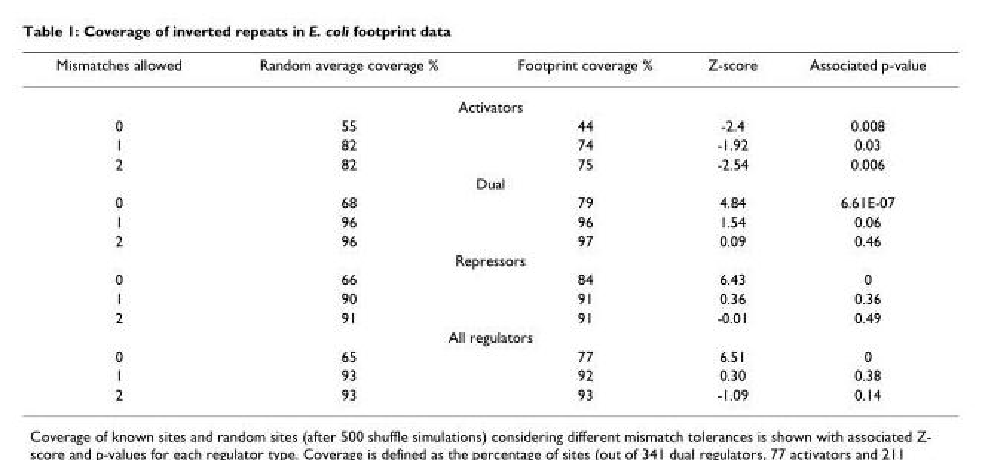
<table><thead><tr><td>Mismatches allowed</td><td>Random average coverage %</td><td>Footprint coverage %</td><td>Z-score</td><td>Associated p-value</td></tr></thead><tbody><tr><td colspan="5">Activators</td></tr><tr><td>0</td><td>55</td><td>44</td><td>-2.4</td><td>0.008</td></tr><tr><td>1</td><td>82</td><td>74</td><td>-1.92</td><td>0.03</td></tr><tr><td>2</td><td>82</td><td>75</td><td>-2.54</td><td>0.006</td></tr><tr><td colspan="5">Dual</td></tr><tr><td>0</td><td>68</td><td>79</td><td>4.84</td><td>6.61E-07</td></tr><tr><td>1</td><td>96</td><td>96</td><td>1.54</td><td>0.06</td></tr><tr><td>2</td><td>96</td><td>97</td><td>0.09</td><td>0.46</td></tr><tr><td colspan="5">Repressors</td></tr><tr><td>0</td><td>66</td><td>84</td><td>6.43</td><td>0</td></tr><tr><td>1</td><td>90</td><td>91</td><td>0.36</td><td>0.36</td></tr><tr><td>2</td><td>91</td><td>91</td><td>-0.01</td><td>0.49</td></tr><tr><td colspan="5">All regulators</td></tr><tr><td>0</td><td>65</td><td>77</td><td>6.51</td><td>0</td></tr><tr><td>1</td><td>93</td><td>92</td><td>0.30</td><td>0.38</td></tr><tr><td>2</td><td>93</td><td>93</td><td>-1.09</td><td>0.14</td></tr></tbody></table>